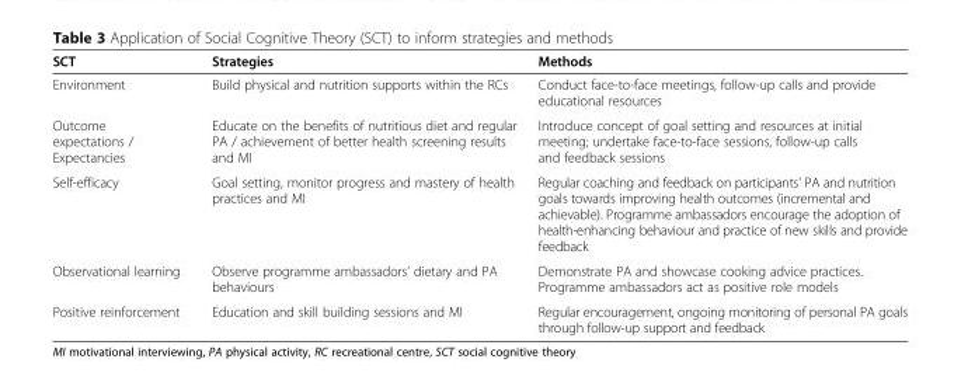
<table><thead><tr><td>SCT</td><td>Strategies</td><td>Methods</td></tr></thead><tbody><tr><td>Environment</td><td>Build physical and nutrition supports within the RCs</td><td>Conduct face-to-face meetings, follow-up calls and provide educational resources</td></tr><tr><td>Outcome expectations / Expectancies</td><td>Educate on the benefits of nutritious diet and regular PA / achievement of better health screening results and MI</td><td>Introduce concept of goal setting and resources at initial meeting; undertake face-to-face sessions, follow-up calls and feedback sessions</td></tr><tr><td>Self-efficacy</td><td>Goal setting, monitor progress and mastery of health practices and MI</td><td>Regular coaching and feedback on participants&#x27; PA and nutrition goals towards improving health outcomes (incremental and achievable). Programme ambassadors encourage the adoption of health-enhancing behaviour and practice of new skills and provide feedback</td></tr><tr><td>Observational learning</td><td>Observe programme ambassadors’ dietary and PA behaviours</td><td>Demonstrate PA and showcase cooking advice practices. Programme ambassadors act as positive role models</td></tr><tr><td>Positive reinforcement</td><td>Education and skill building sessions and MI</td><td>Regular encouragement, ongoing monitoring of personal PA goals through follow-up support and feedback</td></tr></tbody></table>